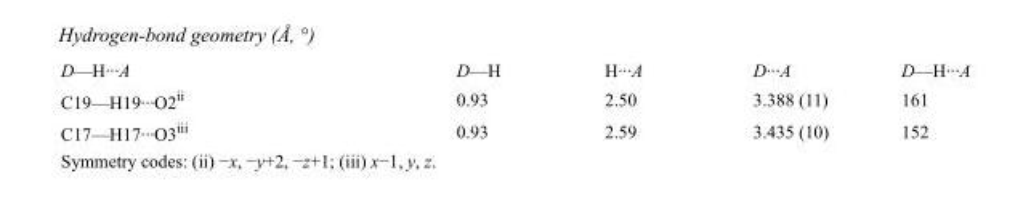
<table><tbody><tr><td>D—H···A</td><td>D—H</td><td>H···A</td><td>D···A</td><td>D—H···A</td></tr><tr><td>C19—H19···O2<sup>ii</sup></td><td>0.93</td><td>2.50</td><td>3.388 (11)</td><td>161</td></tr><tr><td>C17—H17···O3<sup>iii</sup></td><td>0.93</td><td>2.59</td><td>3.435 (10)</td><td>152</td></tr></tbody></table>